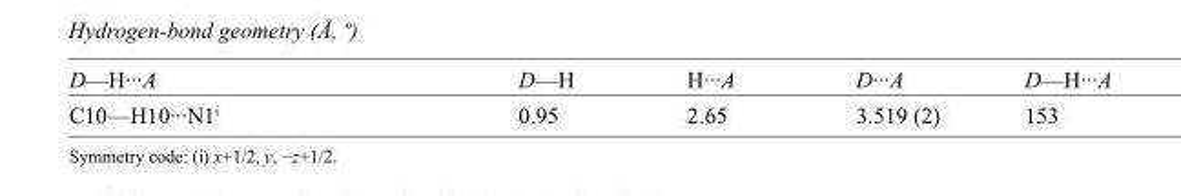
<table><tbody><tr><td>D—H···A</td><td>D—H</td><td>H···A</td><td>D···A</td><td>D—H···A</td></tr><tr><td>C10—H10···N1<sup>i</sup></td><td>0.95</td><td>2.65</td><td>3.519 (2)</td><td>153</td></tr></tbody></table>